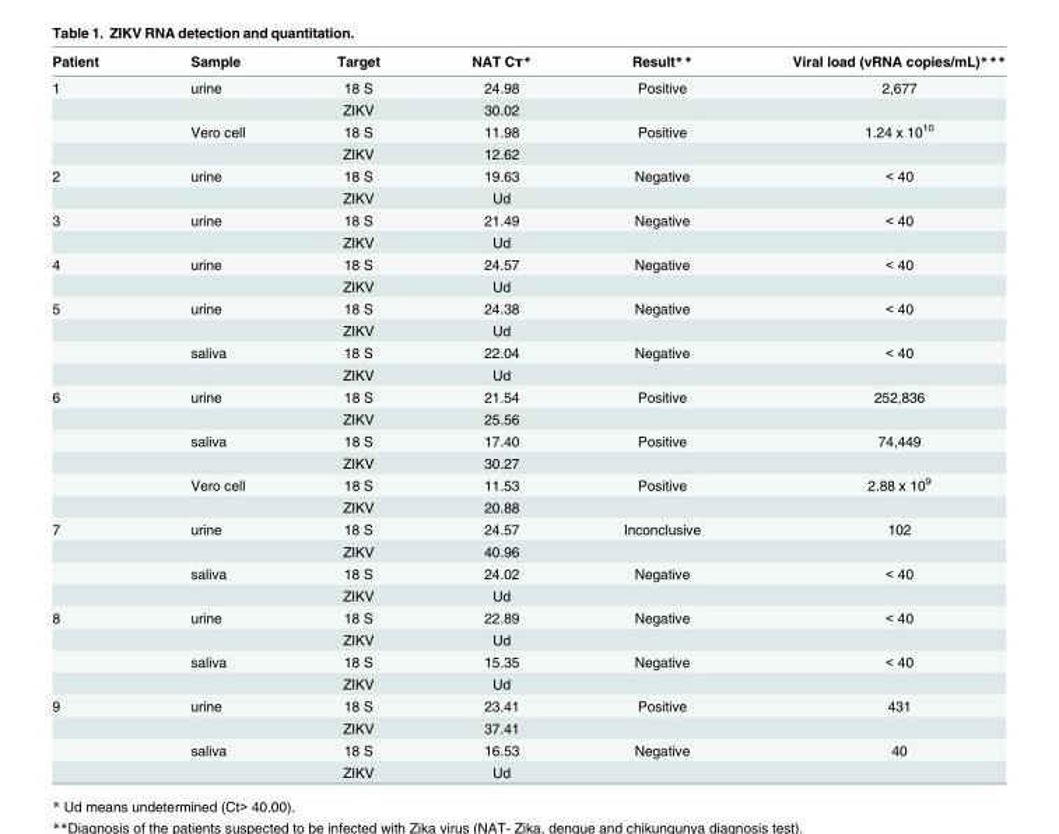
<table><thead><tr><td>Patient</td><td>Sample</td><td>Target</td><td>NAT Cт*</td><td>Result**</td><td>Viral load (vRNA copies/mL)***</td></tr></thead><tbody><tr><td rowspan="4">1</td><td>urine</td><td>18 S</td><td>24.98</td><td>Positive</td><td>2,677</td></tr><tr><td></td><td>ZIKV</td><td>30.02</td><td></td><td></td></tr><tr><td>Vero cell</td><td>18 S</td><td>11.98</td><td>Positive</td><td>1.24 x 10<sup>10</sup></td></tr><tr><td></td><td>ZIKV</td><td>12.62</td><td></td><td></td></tr><tr><td rowspan="2">2</td><td>urine</td><td>18 S</td><td>19.63</td><td>Negative</td><td>&lt; 40</td></tr><tr><td></td><td>ZIKV</td><td>Ud</td><td></td><td></td></tr><tr><td rowspan="2">3</td><td>urine</td><td>18 S</td><td>21.49</td><td>Negative</td><td>&lt; 40</td></tr><tr><td></td><td>ZIKV</td><td>Ud</td><td></td><td></td></tr><tr><td rowspan="2">4</td><td>urine</td><td>18 S</td><td>24.57</td><td>Negative</td><td>&lt; 40</td></tr><tr><td></td><td>ZIKV</td><td>Ud</td><td></td><td></td></tr><tr><td rowspan="4">5</td><td>urine</td><td>18 S</td><td>24.38</td><td>Negative</td><td>&lt; 40</td></tr><tr><td></td><td>ZIKV</td><td>Ud</td><td></td><td></td></tr><tr><td>saliva</td><td>18 S</td><td>22.04</td><td>Negative</td><td>&lt; 40</td></tr><tr><td></td><td>ZIKV</td><td>Ud</td><td></td><td></td></tr><tr><td rowspan="6">6</td><td>urine</td><td>18 S</td><td>21.54</td><td>Positive</td><td>252,836</td></tr><tr><td></td><td>ZIKV</td><td>25.56</td><td></td><td></td></tr><tr><td>saliva</td><td>18 S</td><td>17.40</td><td>Positive</td><td>74,449</td></tr><tr><td></td><td>ZIKV</td><td>30.27</td><td></td><td></td></tr><tr><td>Vero cell</td><td>18 S</td><td>11.53</td><td>Positive</td><td>2.88 x 10<sup>9</sup></td></tr><tr><td></td><td>ZIKV</td><td>20.88</td><td></td><td></td></tr><tr><td rowspan="4">7</td><td>urine</td><td>18 S</td><td>24.57</td><td>Inconclusive</td><td>102</td></tr><tr><td></td><td>ZIKV</td><td>40.96</td><td></td><td></td></tr><tr><td>saliva</td><td>18 S</td><td>24.02</td><td>Negative</td><td>&lt; 40</td></tr><tr><td></td><td>ZIKV</td><td>Ud</td><td></td><td></td></tr><tr><td rowspan="4">8</td><td>urine</td><td>18 S</td><td>22.89</td><td>Negative</td><td>&lt; 40</td></tr><tr><td></td><td>ZIKV</td><td>Ud</td><td></td><td></td></tr><tr><td>saliva</td><td>18 S</td><td>15.35</td><td>Negative</td><td>&lt; 40</td></tr><tr><td></td><td>ZIKV</td><td>Ud</td><td></td><td></td></tr><tr><td rowspan="4">9</td><td>urine</td><td>18 S</td><td>23.41</td><td>Positive</td><td>431</td></tr><tr><td></td><td>ZIKV</td><td>37.41</td><td></td><td></td></tr><tr><td>saliva</td><td>18 S</td><td>16.53</td><td>Negative</td><td>40</td></tr><tr><td></td><td>ZIKV</td><td>Ud</td><td></td><td></td></tr></tbody></table>